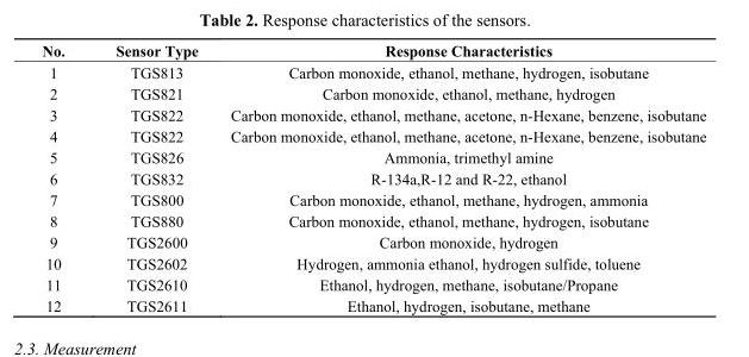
<table><thead><tr><td>No.</td><td>Sensor Type</td><td>Response Characteristics</td></tr></thead><tbody><tr><td>1</td><td>TGS813</td><td>Carbon monoxide, ethanol, methane, hydrogen, isobutane</td></tr><tr><td>2</td><td>TGS821</td><td>Carbon monoxide, ethanol, methane, hydrogen</td></tr><tr><td>3</td><td>TGS822</td><td>Carbon monoxide, ethanol, methane, acetone, n-Hexane, benzene, isobutane</td></tr><tr><td>4</td><td>TGS822</td><td>Carbon monoxide, ethanol, methane, acetone, n-Hexane, benzene, isobutane</td></tr><tr><td>5</td><td>TGS826</td><td>Ammonia, trimethyl amine</td></tr><tr><td>6</td><td>TGS832</td><td>R-134a,R-12 and R-22, ethanol</td></tr><tr><td>7</td><td>TGS800</td><td>Carbon monoxide, ethanol, methane, hydrogen, ammonia</td></tr><tr><td>8</td><td>TGS880</td><td>Carbon monoxide, ethanol, methane, hydrogen, isobutane</td></tr><tr><td>9</td><td>TGS2600</td><td>Carbon monoxide, hydrogen</td></tr><tr><td>10</td><td>TGS2602</td><td>Hydrogen, ammonia ethanol, hydrogen sulfide, toluene</td></tr><tr><td>11</td><td>TGS2610</td><td>Ethanol, hydrogen, methane, isobutane/Propane</td></tr><tr><td>12</td><td>TGS2611</td><td>Ethanol, hydrogen, isobutane, methane</td></tr></tbody></table>